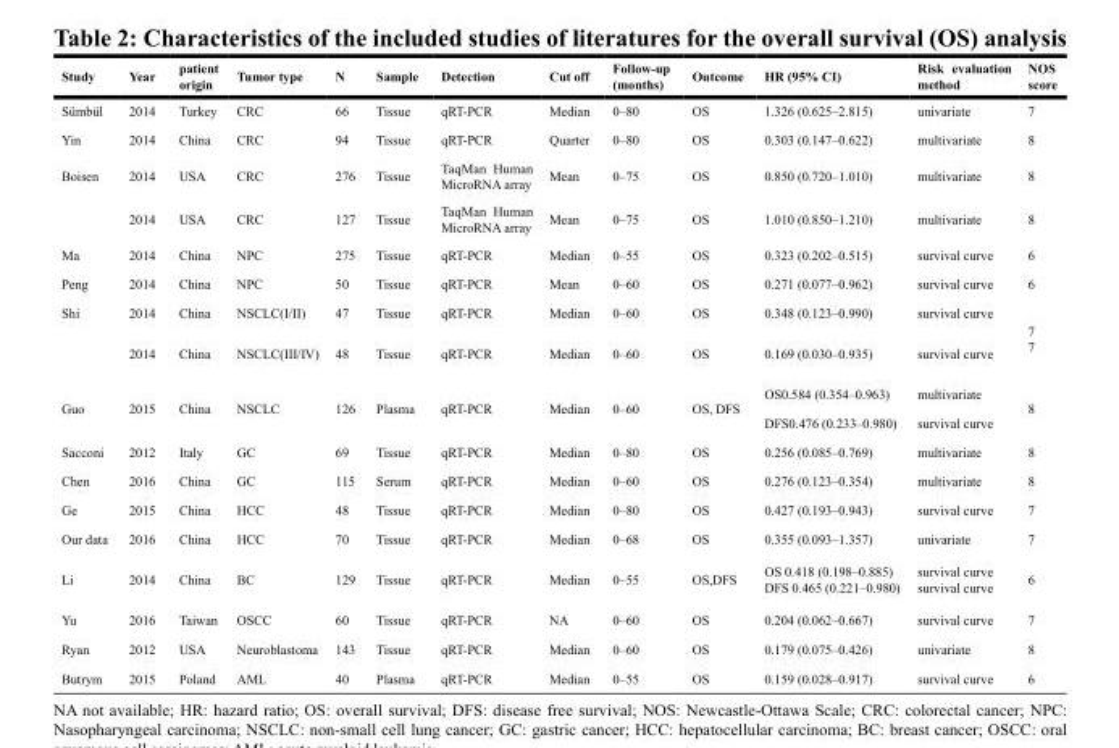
<table><thead><tr><td>Study</td><td>Year</td><td>patient origin</td><td>Tumor type</td><td>N</td><td>Sample</td><td>Detection</td><td>Cut off</td><td>Follow-up (months)</td><td>Outcome</td><td>HR (95% CI)</td><td>Risk evaluation method</td><td>NOS score</td></tr></thead><tbody><tr><td>Sümbül</td><td>2014</td><td>Turkey</td><td>CRC</td><td>66</td><td>Tissue</td><td>qRT-PCR</td><td>Median</td><td>0–80</td><td>OS</td><td>1.326 (0.625–2.815)</td><td>univariate</td><td>7</td></tr><tr><td>Yin</td><td>2014</td><td>China</td><td>CRC</td><td>94</td><td>Tissue</td><td>qRT-PCR</td><td>Quarter</td><td>0–80</td><td>OS</td><td>0.303 (0.147–0.622)</td><td>multivariate</td><td>8</td></tr><tr><td rowspan="2">Boisen</td><td>2014</td><td>USA</td><td>CRC</td><td>276</td><td>Tissue</td><td>TaqMan Human MicroRNA array</td><td>Mean</td><td>0–75</td><td>OS</td><td>0.850 (0.720–1.010)</td><td>multivariate</td><td>8</td></tr><tr><td>2014</td><td>USA</td><td>CRC</td><td>127</td><td>Tissue</td><td>TaqMan Human MicroRNA array</td><td>Mean</td><td>0–75</td><td>OS</td><td>1.010 (0.850–1.210)</td><td>multivariate</td><td>8</td></tr><tr><td>Ma</td><td>2014</td><td>China</td><td>NPC</td><td>275</td><td>Tissue</td><td>qRT-PCR</td><td>Median</td><td>0–55</td><td>OS</td><td>0.323 (0.202–0.515)</td><td>survival curve</td><td>6</td></tr><tr><td>Peng</td><td>2014</td><td>China</td><td>NPC</td><td>50</td><td>Tissue</td><td>qRT-PCR</td><td>Mean</td><td>0–60</td><td>OS</td><td>0.271 (0.077–0.962)</td><td>survival curve</td><td>6</td></tr><tr><td rowspan="2">Shi</td><td>2014</td><td>China</td><td>NSCLC(I/II)</td><td>47</td><td>Tissue</td><td>qRT-PCR</td><td>Median</td><td>0–60</td><td>OS</td><td>0.348 (0.123–0.990)</td><td>survival curve</td><td rowspan="2">7 7</td></tr><tr><td>2014</td><td>China</td><td>NSCLC(III/IV)</td><td>48</td><td>Tissue</td><td>qRT-PCR</td><td>Median</td><td>0–60</td><td>OS</td><td>0.169 (0.030–0.935)</td><td>survival curve</td></tr><tr><td rowspan="2">Guo</td><td rowspan="2">2015</td><td rowspan="2">China</td><td rowspan="2">NSCLC</td><td rowspan="2">126</td><td rowspan="2">Plasma</td><td rowspan="2">qRT-PCR</td><td rowspan="2">Median</td><td rowspan="2">0–60</td><td rowspan="2">OS, DFS</td><td>OS0.584 (0.354–0.963)</td><td>multivariate</td><td rowspan="2">8</td></tr><tr><td>DFS0.476 (0.233–0.980)</td><td>survival curve</td></tr><tr><td>Sacconi</td><td>2012</td><td>Italy</td><td>GC</td><td>69</td><td>Tissue</td><td>qRT-PCR</td><td>Median</td><td>0–80</td><td>OS</td><td>0.256 (0.085–0.769)</td><td>multivariate</td><td>8</td></tr><tr><td>Chen</td><td>2016</td><td>China</td><td>GC</td><td>115</td><td>Serum</td><td>qRT-PCR</td><td>Median</td><td>0–60</td><td>OS</td><td>0.276 (0.123–0.354)</td><td>multivariate</td><td>8</td></tr><tr><td>Ge</td><td>2015</td><td>China</td><td>HCC</td><td>48</td><td>Tissue</td><td>qRT-PCR</td><td>Median</td><td>0–80</td><td>OS</td><td>0.427 (0.193–0.943)</td><td>survival curve</td><td>7</td></tr><tr><td>Our data</td><td>2016</td><td>China</td><td>HCC</td><td>70</td><td>Tissue</td><td>qRT-PCR</td><td>Median</td><td>0–68</td><td>OS</td><td>0.355 (0.093–1.357)</td><td>univariate</td><td>7</td></tr><tr><td>Li</td><td>2014</td><td>China</td><td>BC</td><td>129</td><td>Tissue</td><td>qRT-PCR</td><td>Median</td><td>0–55</td><td>OS,DFS</td><td>OS 0.418 (0.198–0.885) DFS 0.465 (0.221–0.980)</td><td>survival curve survival curve</td><td>6</td></tr><tr><td>Yu</td><td>2016</td><td>Taiwan</td><td>OSCC</td><td>60</td><td>Tissue</td><td>qRT-PCR</td><td>NA</td><td>0–60</td><td>OS</td><td>0.204 (0.062–0.667)</td><td>survival curve</td><td>7</td></tr><tr><td>Ryan</td><td>2012</td><td>USA</td><td>Neuroblastoma</td><td>143</td><td>Tissue</td><td>qRT-PCR</td><td>Median</td><td>0–60</td><td>OS</td><td>0.179 (0.075–0.426)</td><td>univariate</td><td>8</td></tr><tr><td>Butrym</td><td>2015</td><td>Poland</td><td>AML</td><td>40</td><td>Plasma</td><td>qRT-PCR</td><td>Median</td><td>0–55</td><td>OS</td><td>0.159 (0.028–0.917)</td><td>survival curve</td><td>6</td></tr></tbody></table>